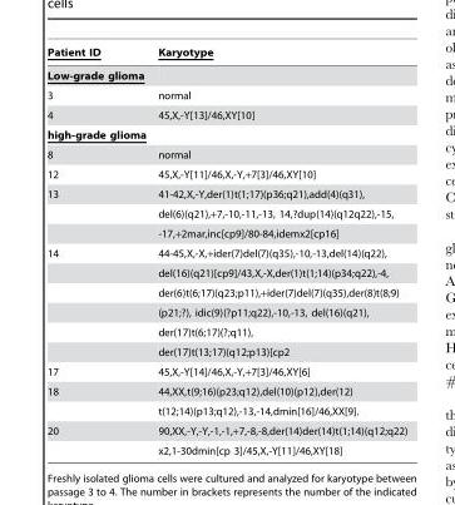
<table><thead><tr><td>Patient ID</td><td>Karyotype</td></tr></thead><tbody><tr><td colspan="2">Low-grade glioma</td></tr><tr><td>3</td><td>normal</td></tr><tr><td>4</td><td>45,X,-Y[13]/46,XY[10]</td></tr><tr><td colspan="2">high-grade glioma</td></tr><tr><td>8</td><td>normal</td></tr><tr><td>12</td><td>45,X,-Y[11]/46,X,-Y,+7[3]/46,XY[10]</td></tr><tr><td rowspan="3">13</td><td>41-42,X,-Y,der(1)t(1;17)(p36;q21),add(4)(q31),</td></tr><tr><td>del(6)(q21),+7,-10,-11,-13, 14,?dup(14)(q12q22),-15,</td></tr><tr><td>-17,+2mar,inc[cp9]/80-84,idemx2[cp16]</td></tr><tr><td rowspan="6">14</td><td>44-45,X,-X,+ider(7)del(7)(q35),-10,-13,del(14)(q22),</td></tr><tr><td>del(16)(q21)[cp9]/43,X,-X,der(1)t(1;14)(p34;q22),-4,</td></tr><tr><td>der(6)t(6;17)(q23;p11),+ider(7)del(7)(q35),der(8)t(8;9)</td></tr><tr><td>(p21;?), idic(9)(?p11;q22),-10,-13, del(16)(q21),</td></tr><tr><td>der(17)t(6;17)(?;q11),</td></tr><tr><td>der(17)t(13;17)(q12;p13)[cp2</td></tr><tr><td>17</td><td>45,X,-Y[14]/46,X,-Y,+7[3]/46,XY[6]</td></tr><tr><td rowspan="2">18</td><td>44,XX,t(9;16)(p23;q12),del(10)(p12),der(12)</td></tr><tr><td>t(12;14)(p13;q12),-13,-14,dmin[16]/46,XX[9].</td></tr><tr><td rowspan="2">20</td><td>90,XX,-Y,-Y,-1,-1,+7,-8,-8,der(14)der(14)t(1;14)(q12;q22)</td></tr><tr><td>x2,1-30dmin[cp 3]/45,X,-Y[11]/46,XY[18]</td></tr></tbody></table>